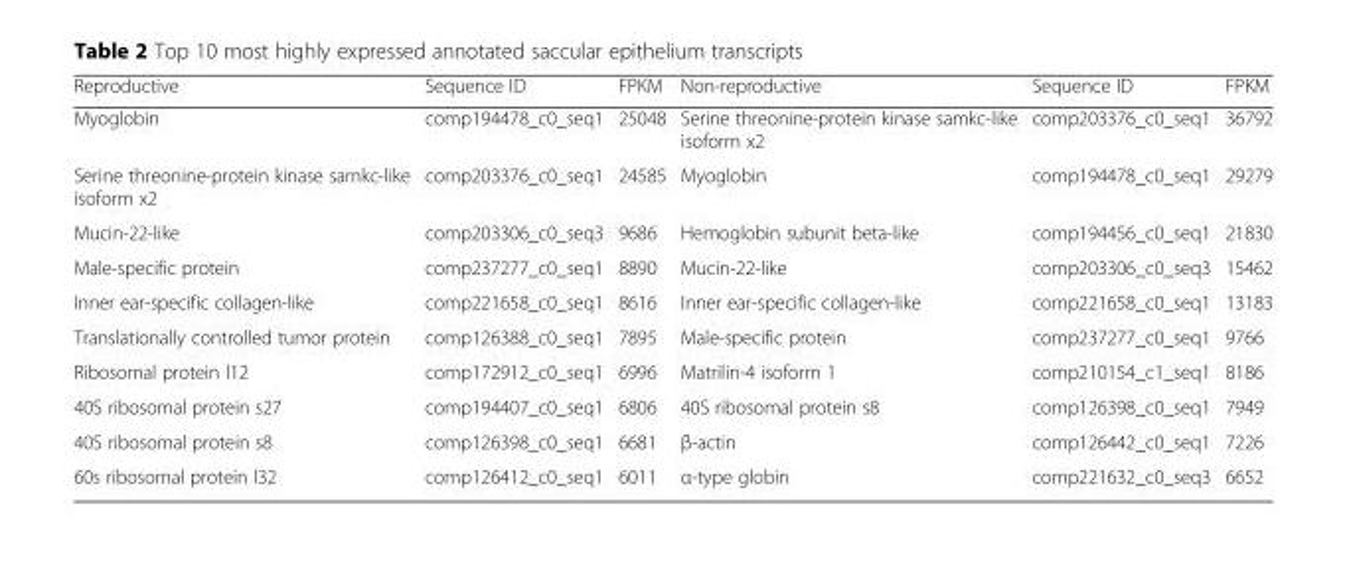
<table><thead><tr><td>Reproductive</td><td>Sequence ID</td><td>FPKM</td><td>Non-reproductive</td><td>Sequence ID</td><td>FPKM</td></tr></thead><tbody><tr><td>Myoglobin</td><td>comp194478_c0_seq1</td><td>25048</td><td>Serine threonine-protein kinase samkc-like isoform x2</td><td>comp203376_c0_seq1</td><td>36792</td></tr><tr><td>Serine threonine-protein kinase samkc-like isoform x2</td><td>comp203376_c0_seq1</td><td>24585</td><td>Myoglobin</td><td>comp194478_c0_seq1</td><td>29279</td></tr><tr><td>Mucin-22-like</td><td>comp203306_c0_seq3</td><td>9686</td><td>Hemoglobin subunit beta-like</td><td>comp194456_c0_seq1</td><td>21830</td></tr><tr><td>Male-specific protein</td><td>comp237277_c0_seq1</td><td>8890</td><td>Mucin-22-like</td><td>comp203306_c0_seq3</td><td>15462</td></tr><tr><td>Inner ear-specific collagen-like</td><td>comp221658_c0_seq1</td><td>8616</td><td>Inner ear-specific collagen-like</td><td>comp221658_c0_seq1</td><td>13183</td></tr><tr><td>Translationally controlled tumor protein</td><td>comp126388_c0_seq1</td><td>7895</td><td>Male-specific protein</td><td>comp237277_c0_seq1</td><td>9766</td></tr><tr><td>Ribosomal protein l12</td><td>comp172912_c0_seq1</td><td>6996</td><td>Matrilin-4 isoform 1</td><td>comp210154_c1_seq1</td><td>8186</td></tr><tr><td>40S ribosomal protein s27</td><td>comp194407_c0_seq1</td><td>6806</td><td>40S ribosomal protein s8</td><td>comp126398_c0_seq1</td><td>7949</td></tr><tr><td>40S ribosomal protein s8</td><td>comp126398_c0_seq1</td><td>6681</td><td>β-actin</td><td>comp126442_c0_seq1</td><td>7226</td></tr><tr><td>60s ribosomal protein l32</td><td>comp126412_c0_seq1</td><td>6011</td><td>α-type globin</td><td>comp221632_c0_seq3</td><td>6652</td></tr></tbody></table>